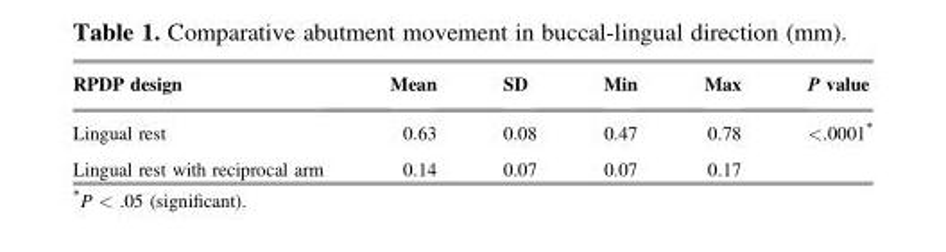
<table><thead><tr><td>RPDP design</td><td>Mean</td><td>SD</td><td>Min</td><td>Max</td><td>P value</td></tr></thead><tbody><tr><td>Lingual rest</td><td>0.63</td><td>0.08</td><td>0.47</td><td>0.78</td><td rowspan="2">&lt;.0001*</td></tr><tr><td>Lingual rest with reciprocal arm</td><td>0.14</td><td>0.07</td><td>0.07</td><td>0.17</td></tr></tbody></table>